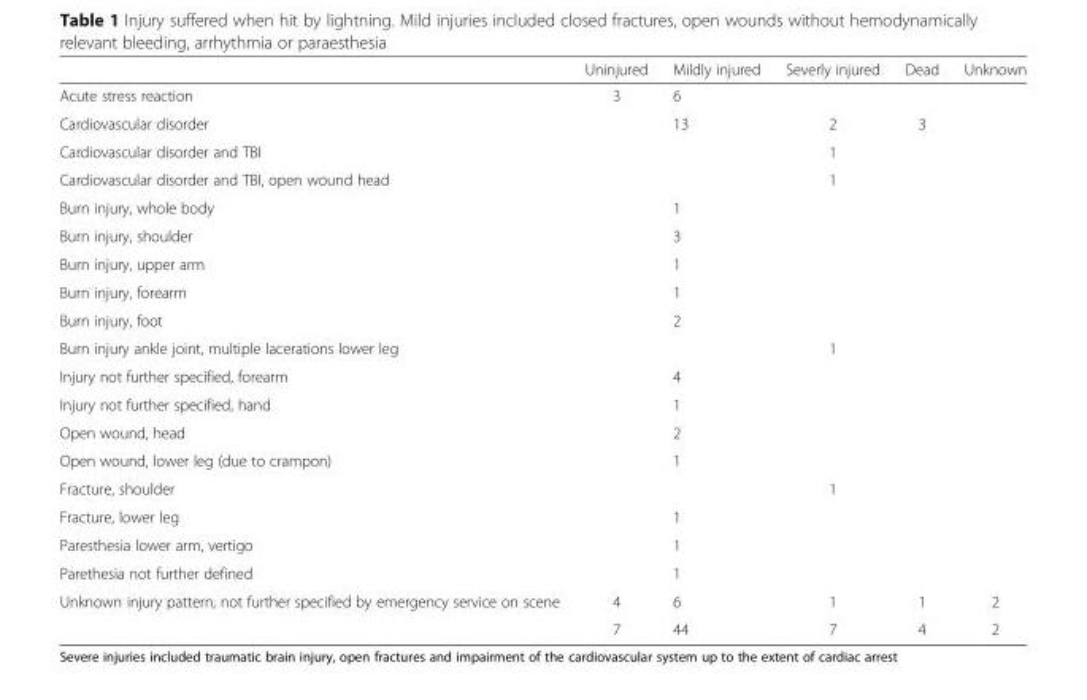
<table><thead><tr><td></td><td>Uninjured</td><td>Mildly injured</td><td>Severly injured</td><td>Dead</td><td>Unknown</td></tr></thead><tbody><tr><td>Acute stress reaction</td><td>3</td><td>6</td><td></td><td></td><td></td></tr><tr><td>Cardiovascular disorder</td><td></td><td>13</td><td>2</td><td>3</td><td></td></tr><tr><td>Cardiovascular disorder and TBI</td><td></td><td></td><td>1</td><td></td><td></td></tr><tr><td>Cardiovascular disorder and TBI, open wound head</td><td></td><td></td><td>1</td><td></td><td></td></tr><tr><td>Burn injury, whole body</td><td></td><td>1</td><td></td><td></td><td></td></tr><tr><td>Burn injury, shoulder</td><td></td><td>3</td><td></td><td></td><td></td></tr><tr><td>Burn injury, upper arm</td><td></td><td>1</td><td></td><td></td><td></td></tr><tr><td>Burn injury, forearm</td><td></td><td>1</td><td></td><td></td><td></td></tr><tr><td>Burn injury, foot</td><td></td><td>2</td><td></td><td></td><td></td></tr><tr><td>Burn injury ankle joint, multiple lacerations lower leg</td><td></td><td></td><td>1</td><td></td><td></td></tr><tr><td>Injury not further specified, forearm</td><td></td><td>4</td><td></td><td></td><td></td></tr><tr><td>Injury not further specified, hand</td><td></td><td>1</td><td></td><td></td><td></td></tr><tr><td>Open wound, head</td><td></td><td>2</td><td></td><td></td><td></td></tr><tr><td>Open wound, lower leg (due to crampon)</td><td></td><td>1</td><td></td><td></td><td></td></tr><tr><td>Fracture, shoulder</td><td></td><td></td><td>1</td><td></td><td></td></tr><tr><td>Fracture, lower leg</td><td></td><td>1</td><td></td><td></td><td></td></tr><tr><td>Paresthesia lower arm, vertigo</td><td></td><td>1</td><td></td><td></td><td></td></tr><tr><td>Parethesia not further defined</td><td></td><td>1</td><td></td><td></td><td></td></tr><tr><td rowspan="2">Unknown injury pattern, not further specified by emergency service on scene</td><td>4</td><td>6</td><td>1</td><td>1</td><td>2</td></tr><tr><td>7</td><td>44</td><td>7</td><td>4</td><td>2</td></tr></tbody></table>